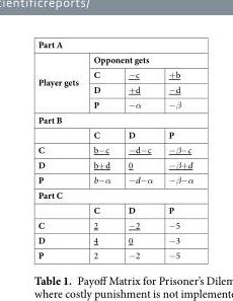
<table><tbody><tr><td colspan="4">Part A</td></tr><tr><td rowspan="4">Player gets</td><td colspan="3">Opponent gets</td></tr><tr><td>C</td><td>−c</td><td>+b</td></tr><tr><td>D</td><td>+d</td><td>−d</td></tr><tr><td>P</td><td>−α</td><td>−β</td></tr><tr><td colspan="4">Part B</td></tr><tr><td></td><td>C</td><td>D</td><td>P</td></tr><tr><td>C</td><td>b−c</td><td>−d−c</td><td>−β−c</td></tr><tr><td>D</td><td>b+d</td><td>0</td><td>−β+d</td></tr><tr><td>P</td><td>b−α</td><td>−d−α</td><td>−β−α</td></tr><tr><td colspan="4">Part C</td></tr><tr><td></td><td>C</td><td>D</td><td>P</td></tr><tr><td>C</td><td>2</td><td>−2</td><td>−5</td></tr><tr><td>D</td><td>4</td><td>0</td><td>−3</td></tr><tr><td>P</td><td>2</td><td>−2</td><td>−5</td></tr></tbody></table>